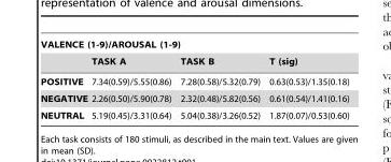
<table><thead><tr><td colspan="4">VALENCE (1-9)/AROUSAL (1-9)</td></tr><tr><td></td><td>TASK A</td><td>TASK B</td><td>T (sig)</td></tr></thead><tbody><tr><td>POSITIVE</td><td>7.34(0.59)/5.55(0.86)</td><td>7.28(0.58)/5.32(0.79)</td><td>0.63(0.53)/1.35(0.18)</td></tr><tr><td>NEGATIVE</td><td>2.26(0.50)/5.90(0.78)</td><td>2.32(0.48)/5.82(0.56)</td><td>0.61(0.54)/1.41(0.16)</td></tr><tr><td>NEUTRAL</td><td>5.19(0.45)/3.31(0.64)</td><td>5.04(0.38)/3.26(0.52)</td><td>1.87(0.07)/0.53(0.60)</td></tr></tbody></table>